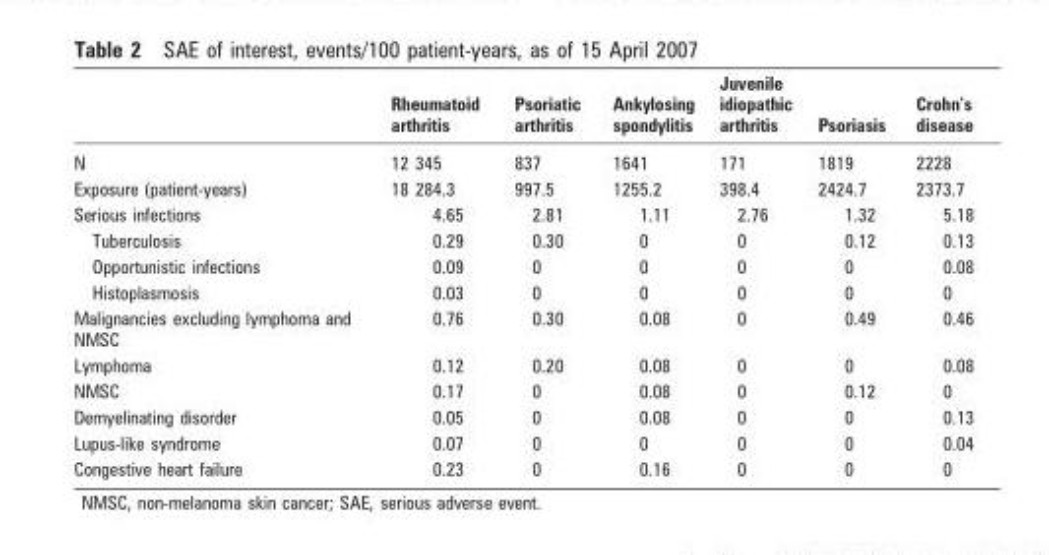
<table><thead><tr><td></td><td>Rheumatoid arthritis</td><td>Psoriatic arthritis</td><td>Ankylosing spondylitis</td><td>Juvenile idiopathic arthritis</td><td>Psoriasis</td><td>Crohn’s disease</td></tr></thead><tbody><tr><td>N</td><td>12 345</td><td>837</td><td>1641</td><td>171</td><td>1819</td><td>2228</td></tr><tr><td>Exposure (patient-years)</td><td>18 284.3</td><td>997.5</td><td>1255.2</td><td>398.4</td><td>2424.7</td><td>2373.7</td></tr><tr><td>Serious infections</td><td>4.65</td><td>2.81</td><td>1.11</td><td>2.76</td><td>1.32</td><td>5.18</td></tr><tr><td>Tuberculosis</td><td>0.29</td><td>0.30</td><td>0</td><td>0</td><td>0.12</td><td>0.13</td></tr><tr><td>Opportunistic infections</td><td>0.09</td><td>0</td><td>0</td><td>0</td><td>0</td><td>0.08</td></tr><tr><td>Histoplasmosis</td><td>0.03</td><td>0</td><td>0</td><td>0</td><td>0</td><td>0</td></tr><tr><td>Malignancies excluding lymphoma and NMSC</td><td>0.76</td><td>0.30</td><td>0.08</td><td>0</td><td>0.49</td><td>0.46</td></tr><tr><td>Lymphoma</td><td>0.12</td><td>0.20</td><td>0.08</td><td>0</td><td>0</td><td>0.08</td></tr><tr><td>NMSC</td><td>0.17</td><td>0</td><td>0.08</td><td>0</td><td>0.12</td><td>0</td></tr><tr><td>Demyelinating disorder</td><td>0.05</td><td>0</td><td>0.08</td><td>0</td><td>0</td><td>0.13</td></tr><tr><td>Lupus-like syndrome</td><td>0.07</td><td>0</td><td>0</td><td>0</td><td>0</td><td>0.04</td></tr><tr><td>Congestive heart failure</td><td>0.23</td><td>0</td><td>0.16</td><td>0</td><td>0</td><td>0</td></tr></tbody></table>